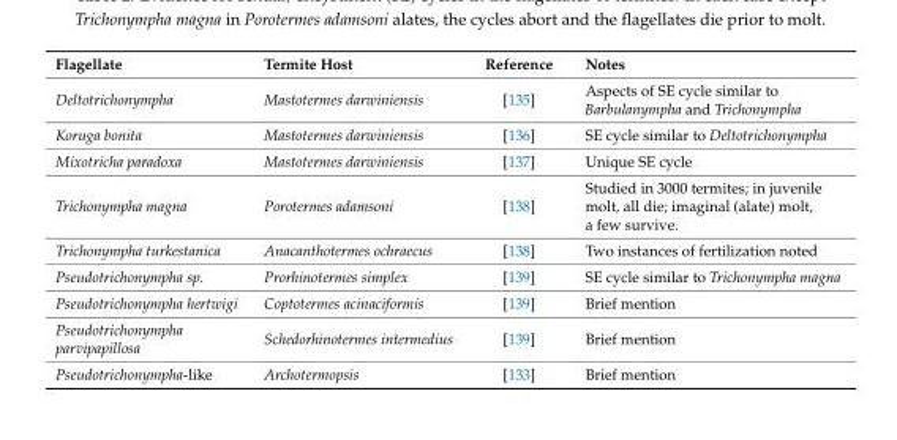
<table><thead><tr><td>Flagellate</td><td>Termite Host</td><td>Reference</td><td>Notes</td></tr></thead><tbody><tr><td>Deltotrichonympha</td><td>Mastotermes darwiniensis</td><td>[135]</td><td>Aspects of SE cycle similar to Barbulanympha and Trichonympha</td></tr><tr><td>Koruga bonita</td><td>Mastotermes darwiniensis</td><td>[136]</td><td>SE cycle similar to Deltotrichonympha</td></tr><tr><td>Mixotricha paradoxa</td><td>Mastotermes darwiniensis</td><td>[137]</td><td>Unique SE cycle</td></tr><tr><td>Trichonympha magna</td><td>Porotermes adamsoni</td><td>[138]</td><td>Studied in 3000 termites; in juvenile molt, all die; imaginal (alate) molt, a few survive.</td></tr><tr><td>Trichonympha turkestanica</td><td>Anacanthotermes ochraecus</td><td>[138]</td><td>Two instances of fertilization noted</td></tr><tr><td>Pseudotrichonympha sp.</td><td>Prorhinotermes simplex</td><td>[139]</td><td>SE cycle similar to Trichonympha magna</td></tr><tr><td>Pseudotrichonympha hertwigi</td><td>Coptotermes acinaciformis</td><td>[139]</td><td>Brief mention</td></tr><tr><td>Pseudotrichonympha parvipapillosa</td><td>Schedorhinotermes intermedius</td><td>[139]</td><td>Brief mention</td></tr><tr><td>Pseudotrichonympha-like</td><td>Archotermopsis</td><td>[133]</td><td>Brief mention</td></tr></tbody></table>